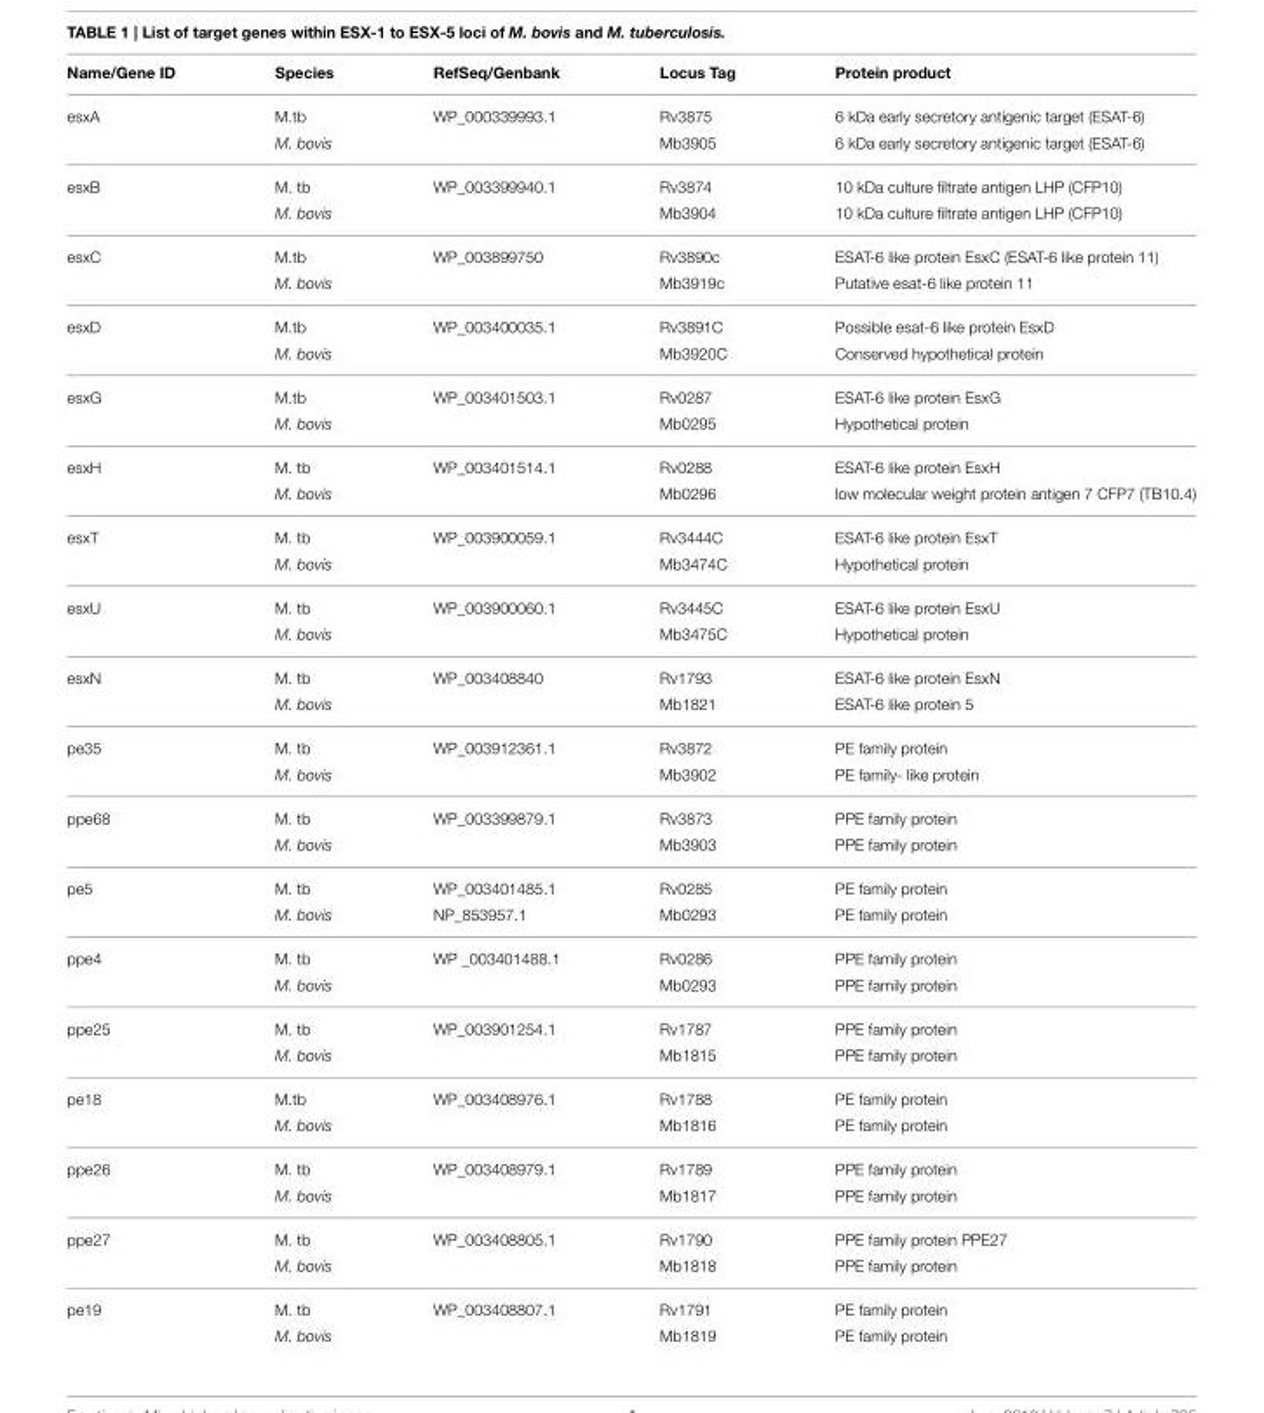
<table><thead><tr><td>Name/Gene ID</td><td>Species</td><td>RefSeq/Genbank</td><td>Locus Tag</td><td>Protein product</td></tr></thead><tbody><tr><td rowspan="2">esxA</td><td>M.tb</td><td>WP_000339993.1</td><td>Rv3875</td><td>6 kDa early secretory antigenic target (ESAT-6)</td></tr><tr><td>M. bovis</td><td></td><td>Mb3905</td><td>6 kDa early secretory antigenic target (ESAT-6)</td></tr><tr><td rowspan="2">esxB</td><td>M. tb</td><td>WP_003399940.1</td><td>Rv3874</td><td>10 kDa culture filtrate antigen LHP (CFP10)</td></tr><tr><td>M. bovis</td><td></td><td>Mb3904</td><td>10 kDa culture filtrate antigen LHP (CFP10)</td></tr><tr><td rowspan="2">esxC</td><td>M.tb</td><td>WP_003899750</td><td>Rv3890c</td><td>ESAT-6 like protein EsxC (ESAT-6 like protein 11)</td></tr><tr><td>M. bovis</td><td></td><td>Mb3919c</td><td>Putative esat-6 like protein 11</td></tr><tr><td rowspan="2">esxD</td><td>M.tb</td><td>WP_003400035.1</td><td>Rv3891C</td><td>Possible esat-6 like protein EsxD</td></tr><tr><td>M. bovis</td><td></td><td>Mb3920C</td><td>Conserved hypothetical protein</td></tr><tr><td rowspan="2">esxG</td><td>M.tb</td><td>WP_003401503.1</td><td>Rv0287</td><td>ESAT-6 like protein EsxG</td></tr><tr><td>M. bovis</td><td></td><td>Mb0295</td><td>Hypothetical protein</td></tr><tr><td rowspan="2">esxH</td><td>M. tb</td><td>WP_003401514.1</td><td>Rv0288</td><td>ESAT-6 like protein EsxH</td></tr><tr><td>M. bovis</td><td></td><td>Mb0296</td><td>low molecular weight protein antigen 7 CFP7 (TB10.4)</td></tr><tr><td rowspan="2">esxT</td><td>M. tb</td><td>WP_003900059.1</td><td>Rv3444C</td><td>ESAT-6 like protein EsxT</td></tr><tr><td>M. bovis</td><td></td><td>Mb3474C</td><td>Hypothetical protein</td></tr><tr><td rowspan="2">esxU</td><td>M. tb</td><td>WP_003900060.1</td><td>Rv3445C</td><td>ESAT-6 like protein EsxU</td></tr><tr><td>M. bovis</td><td></td><td>Mb3475C</td><td>Hypothetical protein</td></tr><tr><td rowspan="2">esxN</td><td>M. tb</td><td>WP_003408840</td><td>Rv1793</td><td>ESAT-6 like protein EsxN</td></tr><tr><td>M. bovis</td><td></td><td>Mb1821</td><td>ESAT-6 like protein 5</td></tr><tr><td rowspan="2">pe35</td><td>M. tb</td><td>WP_003912361.1</td><td>Rv3872</td><td>PE family protein</td></tr><tr><td>M. bovis</td><td></td><td>Mb3902</td><td>PE family- like protein</td></tr><tr><td rowspan="2">ppe68</td><td>M. tb</td><td>WP_003399879.1</td><td>Rv3873</td><td>PPE family protein</td></tr><tr><td>M. bovis</td><td></td><td>Mb3903</td><td>PPE family protein</td></tr><tr><td rowspan="2">pe5</td><td>M. tb</td><td>WP_003401485.1</td><td>Rv0285</td><td>PE family protein</td></tr><tr><td>M. bovis</td><td>NP_853957.1</td><td>Mb0293</td><td>PE family protein</td></tr><tr><td rowspan="2">ppe4</td><td>M. tb</td><td>WP _003401488.1</td><td>Rv0286</td><td>PPE family protein</td></tr><tr><td>M. bovis</td><td></td><td>Mb0293</td><td>PPE family protein</td></tr><tr><td rowspan="2">ppe25</td><td>M. tb</td><td>WP_003901254.1</td><td>Rv1787</td><td>PPE family protein</td></tr><tr><td>M. bovis</td><td></td><td>Mb1815</td><td>PPE family protein</td></tr><tr><td rowspan="2">pe18</td><td>M.tb</td><td>WP_003408976.1</td><td>Rv1788</td><td>PE family protein</td></tr><tr><td>M. bovis</td><td></td><td>Mb1816</td><td>PE family protein</td></tr><tr><td rowspan="2">ppe26</td><td>M. tb</td><td>WP_003408979.1</td><td>Rv1789</td><td>PPE family protein</td></tr><tr><td>M. bovis</td><td></td><td>Mb1817</td><td>PPE family protein</td></tr><tr><td rowspan="2">ppe27</td><td>M. tb</td><td>WP_003408805.1</td><td>Rv1790</td><td>PPE family protein PPE27</td></tr><tr><td>M. bovis</td><td></td><td>Mb1818</td><td>PPE family protein</td></tr><tr><td rowspan="2">pe19</td><td>M. tb</td><td>WP_003408807.1</td><td>Rv1791</td><td>PE family protein</td></tr><tr><td>M. bovis</td><td></td><td>Mb1819</td><td>PE family protein</td></tr></tbody></table>